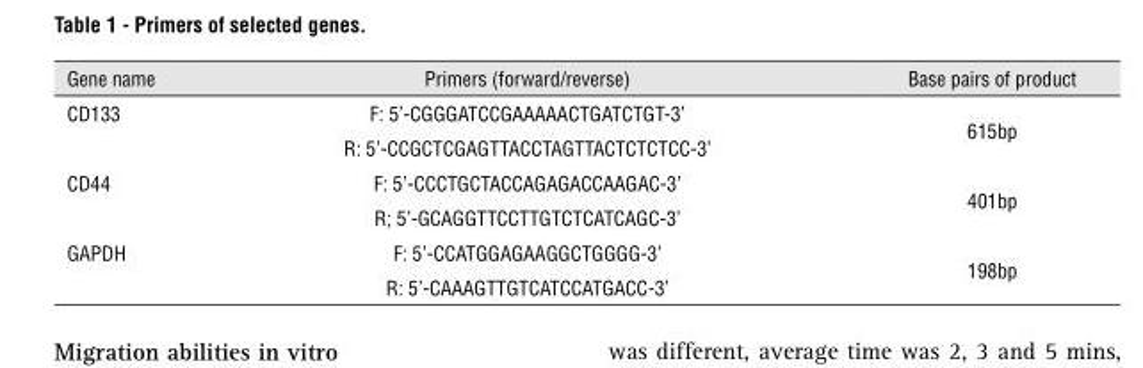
<table><thead><tr><td>Gene name</td><td>Primers (forward/reverse)</td><td>Base pairs of product</td></tr></thead><tbody><tr><td rowspan="2">CD133</td><td>F: 5’-CGGGATCCGAAAAACTGATCTGT-3’</td><td rowspan="2">615bp</td></tr><tr><td>R: 5’-CCGCTCGAGTTACCTAGTTACTCTCTCC-3’</td></tr><tr><td rowspan="2">CD44</td><td>F: 5’-CCCTGCTACCAGAGACCAAGAC-3’</td><td rowspan="2">401bp</td></tr><tr><td>R; 5’-GCAGGTTCCTTGTCTCATCAGC-3’</td></tr><tr><td rowspan="2">GAPDH</td><td>F: 5’-CCATGGAGAAGGCTGGGG-3’</td><td rowspan="2">198bp</td></tr><tr><td>R: 5’-CAAAGTTGTCATCCATGACC-3’</td></tr></tbody></table>